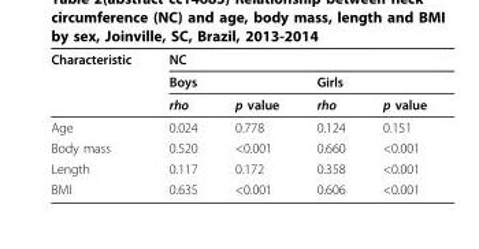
<table><thead><tr><td rowspan="3">Characteristic</td><td colspan="4">NC</td></tr><tr><td colspan="2">Boys</td><td colspan="2">Girls</td></tr><tr><td>rho</td><td>p value</td><td>rho</td><td>p value</td></tr></thead><tbody><tr><td>Age</td><td>0.024</td><td>0.778</td><td>0.124</td><td>0.151</td></tr><tr><td>Body mass</td><td>0.520</td><td>&lt;0.001</td><td>0.660</td><td>&lt;0.001</td></tr><tr><td>Length</td><td>0.117</td><td>0.172</td><td>0.358</td><td>&lt;0.001</td></tr><tr><td>BMI</td><td>0.635</td><td>&lt;0.001</td><td>0.606</td><td>&lt;0.001</td></tr></tbody></table>